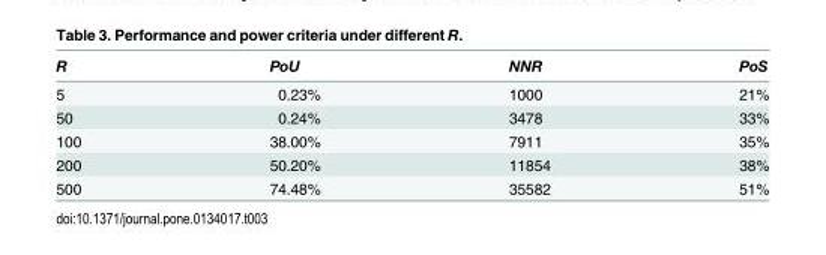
<table><thead><tr><td>R</td><td>PoU</td><td>NNR</td><td>PoS</td></tr></thead><tbody><tr><td>5</td><td>0.23%</td><td>1000</td><td>21%</td></tr><tr><td>50</td><td>0.24%</td><td>3478</td><td>33%</td></tr><tr><td>100</td><td>38.00%</td><td>7911</td><td>35%</td></tr><tr><td>200</td><td>50.20%</td><td>11854</td><td>38%</td></tr><tr><td>500</td><td>74.48%</td><td>35582</td><td>51%</td></tr></tbody></table>